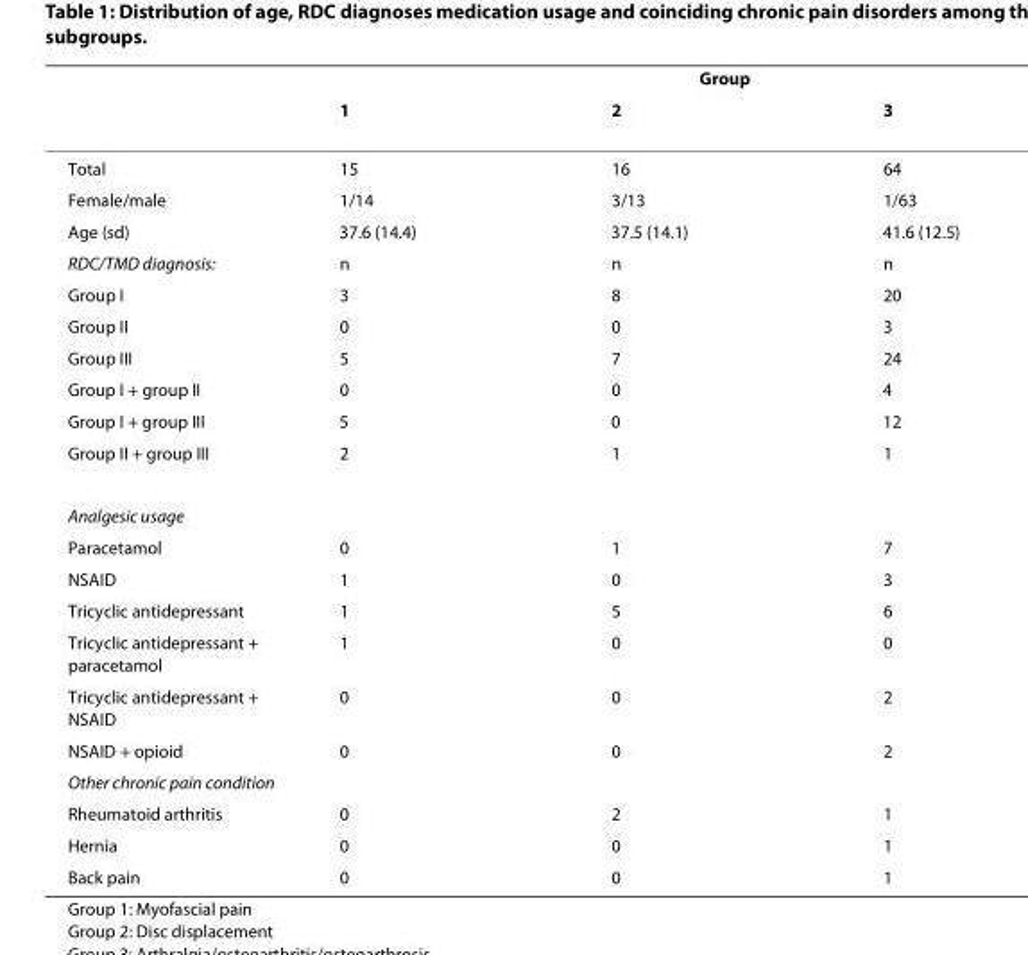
<table><thead><tr><td rowspan="2"></td><td colspan="3">Group</td></tr><tr><td>1</td><td>2</td><td>3</td></tr></thead><tbody><tr><td>Total</td><td>15</td><td>16</td><td>64</td></tr><tr><td>Female/male</td><td>1/14</td><td>3/13</td><td>1/63</td></tr><tr><td>Age (sd)</td><td>37.6 (14.4)</td><td>37.5 (14.1)</td><td>41.6 (12.5)</td></tr><tr><td>RDC/TMD diagnosis:</td><td>n</td><td>n</td><td>n</td></tr><tr><td>Group I</td><td>3</td><td>8</td><td>20</td></tr><tr><td>Group II</td><td>0</td><td>0</td><td>3</td></tr><tr><td>Group III</td><td>5</td><td>7</td><td>24</td></tr><tr><td>Group I + group II</td><td>0</td><td>0</td><td>4</td></tr><tr><td>Group I + group III</td><td>5</td><td>0</td><td>12</td></tr><tr><td>Group II + group III</td><td>2</td><td>1</td><td>1</td></tr><tr><td colspan="4">Analgesic usage</td></tr><tr><td>Paracetamol</td><td>0</td><td>1</td><td>7</td></tr><tr><td>NSAID</td><td>1</td><td>0</td><td>3</td></tr><tr><td>Tricyclic antidepressant</td><td>1</td><td>5</td><td>6</td></tr><tr><td>Tricyclic antidepressant + paracetamol</td><td>1</td><td>0</td><td>0</td></tr><tr><td>Tricyclic antidepressant + NSAID</td><td>0</td><td>0</td><td>2</td></tr><tr><td>NSAID + opioid</td><td>0</td><td>0</td><td>2</td></tr><tr><td colspan="4">Other chronic pain condition</td></tr><tr><td>Rheumatoid arthritis</td><td>0</td><td>2</td><td>1</td></tr><tr><td>Hernia</td><td>0</td><td>0</td><td>1</td></tr><tr><td>Back pain</td><td>0</td><td>0</td><td>1</td></tr></tbody></table>